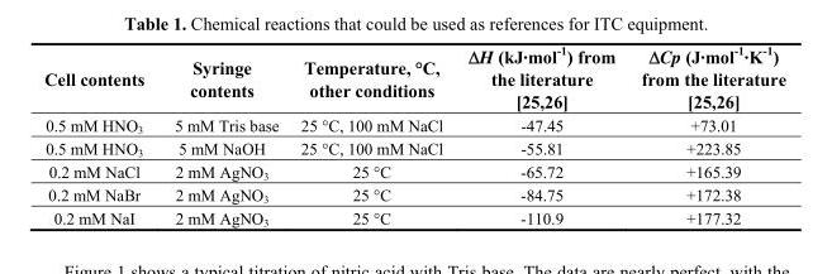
<table><thead><tr><td>Cell contents</td><td>Syringe contents</td><td>Temperature, °C, other conditions</td><td>ΔH (kJ·mol<sup>-1</sup>) from the literature [25,26]</td><td>ΔCp (J·mol<sup>-1</sup>·K<sup>-1</sup>) from the literature [25,26]</td></tr></thead><tbody><tr><td>0.5 mM HNO<sub>3</sub></td><td>5 mM Tris base</td><td>25 °C, 100 mM NaCl</td><td>-47.45</td><td>+73.01</td></tr><tr><td>0.5 mM HNO<sub>3</sub></td><td>5 mM NaOH</td><td>25 °C, 100 mM NaCl</td><td>-55.81</td><td>+223.85</td></tr><tr><td>0.2 mM NaCl</td><td>2 mM AgNO3</td><td>25 °C</td><td>-65.72</td><td>+165.39</td></tr><tr><td>0.2 mM NaBr</td><td>2 mM AgNO3</td><td>25 °C</td><td>-84.75</td><td>+172.38</td></tr><tr><td>0.2 mM NaI</td><td>2 mM AgNO3</td><td>25 °C</td><td>-110.9</td><td>+177.32</td></tr></tbody></table>